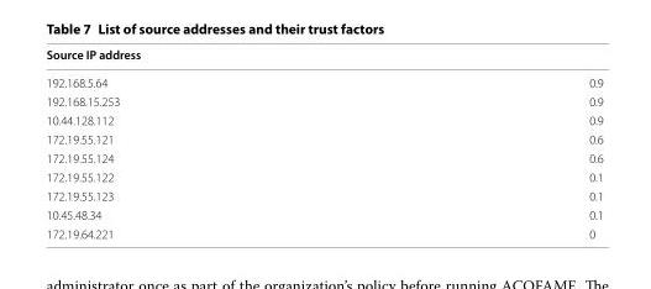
<table><thead><tr><td>Source IP address</td><td></td></tr></thead><tbody><tr><td>192.168.5.64</td><td>0.9</td></tr><tr><td>192.168.15.253</td><td>0.9</td></tr><tr><td>10.44.128.112</td><td>0.9</td></tr><tr><td>172.19.55.121</td><td>0.6</td></tr><tr><td>172.19.55.124</td><td>0.6</td></tr><tr><td>172.19.55.122</td><td>0.1</td></tr><tr><td>172.19.55.123</td><td>0.1</td></tr><tr><td>10.45.48.34</td><td>0.1</td></tr><tr><td>172.19.64.221</td><td>0</td></tr></tbody></table>